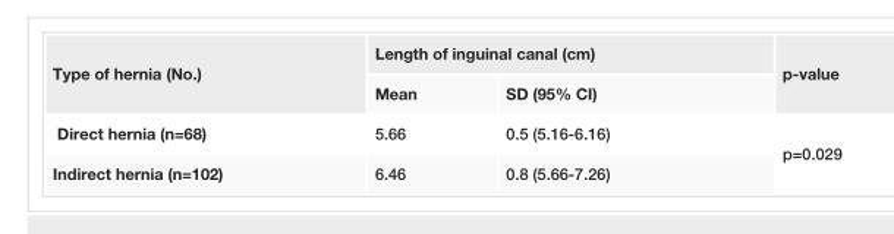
<table><tbody><tr><td rowspan="2">Type of hernia (No.)</td><td colspan="2">Length of inguinal canal (cm)</td><td rowspan="2">p-value</td></tr><tr><td>Mean</td><td>SD (95% CI)</td></tr><tr><td>Direct hernia (n=68)</td><td>5.66</td><td>0.5 (5.16-6.16)</td><td rowspan="2">p=0.029</td></tr><tr><td>Indirect hernia (n=102)</td><td>6.46</td><td>0.8 (5.66-7.26)</td></tr></tbody></table>